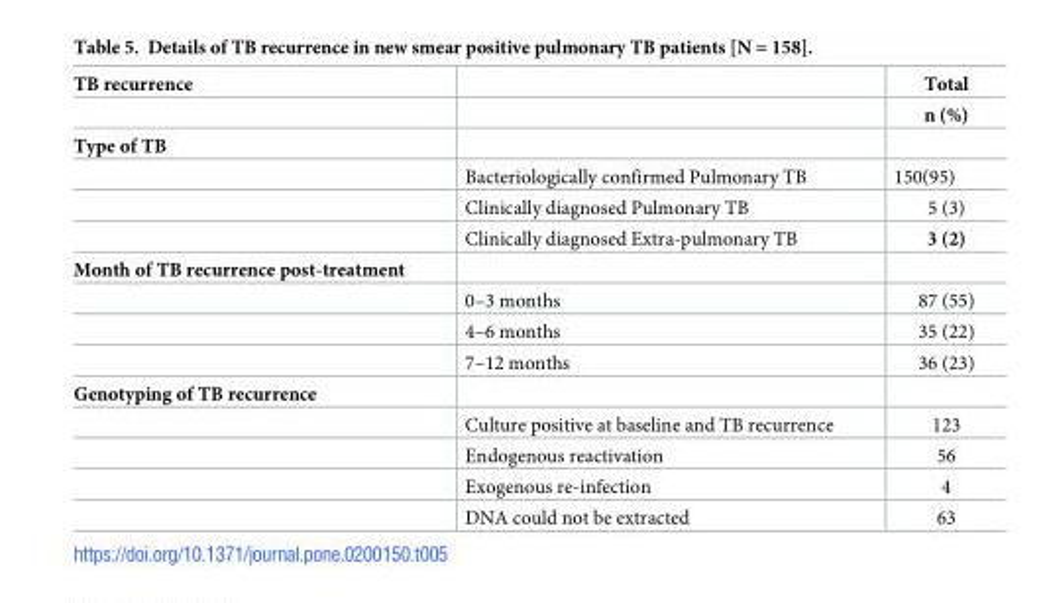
<table><thead><tr><td rowspan="2">TB recurrence</td><td rowspan="2"></td><td rowspan="2">Total n (%)</td></tr><tr></tr></thead><tbody><tr><td colspan="3">Type of TB</td></tr><tr><td></td><td>Bacteriologically confirmed Pulmonary TB</td><td>150(95)</td></tr><tr><td></td><td>Clinically diagnosed Pulmonary TB</td><td>5 (3)</td></tr><tr><td></td><td>Clinically diagnosed Extra-pulmonary TB</td><td>3 (2)</td></tr><tr><td colspan="3">Month of TB recurrence post-treatment</td></tr><tr><td></td><td>0–3 months</td><td>87 (55)</td></tr><tr><td></td><td>4–6 months</td><td>35 (22)</td></tr><tr><td></td><td>7–12 months</td><td>36 (23)</td></tr><tr><td colspan="3">Genotyping of TB recurrence</td></tr><tr><td></td><td>Culture positive at baseline and TB recurrence</td><td>123</td></tr><tr><td></td><td>Endogenous reactivation</td><td>56</td></tr><tr><td></td><td>Exogenous re-infection</td><td>4</td></tr><tr><td></td><td>DNA could not be extracted</td><td>63</td></tr></tbody></table>